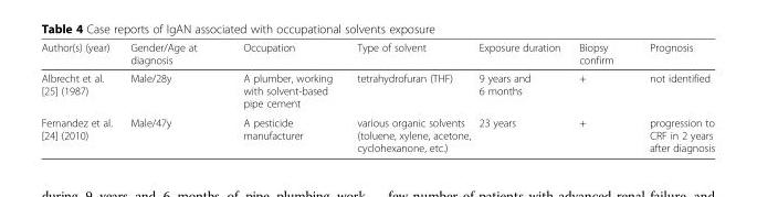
<table><thead><tr><td>Author(s) (year)</td><td>Gender/Age at diagnosis</td><td>Occupation</td><td>Type of solvent</td><td>Exposure duration</td><td>Biopsy confirm</td><td>Prognosis</td></tr></thead><tbody><tr><td>Albrecht et al. [25] (1987)</td><td>Male/28y</td><td>A plumber, working with solvent-based pipe cement</td><td>tetrahydrofuran (THF)</td><td>9 years and 6 months</td><td>+</td><td>not identified</td></tr><tr><td>Fernandez et al. [24] (2010)</td><td>Male/47y</td><td>A pesticide manufacturer</td><td>various organic solvents (toluene, xylene, acetone, cyclohexanone, etc.)</td><td>23 years</td><td>+</td><td>progression to CRF in 2 years after diagnosis</td></tr></tbody></table>